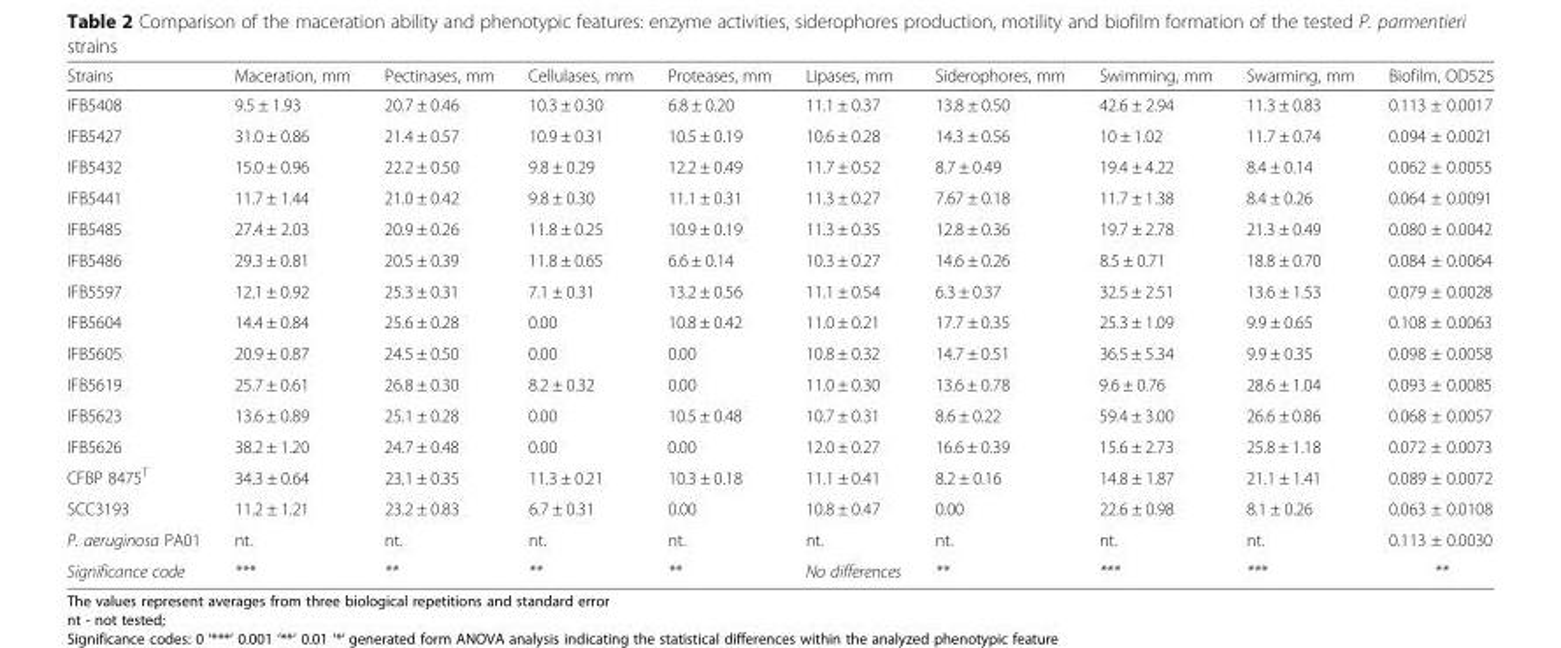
<table><thead><tr><td>Strains</td><td>Maceration, mm</td><td>Pectinases, mm</td><td>Cellulases, mm</td><td>Proteases, mm</td><td>Lipases, mm</td><td>Siderophores, mm</td><td>Swimming, mm</td><td>Swarming, mm</td><td>Biofilm, OD525</td></tr></thead><tbody><tr><td>IFB5408</td><td>9.5 ± 1.93</td><td>20.7 ± 0.46</td><td>10.3 ± 0.30</td><td>6.8 ± 0.20</td><td>11.1 ± 0.37</td><td>13.8 ± 0.50</td><td>42.6 ± 2.94</td><td>11.3 ± 0.83</td><td>0.113 ± 0.0017</td></tr><tr><td>IFB5427</td><td>31.0 ± 0.86</td><td>21.4 ± 0.57</td><td>10.9 ± 0.31</td><td>10.5 ± 0.19</td><td>10.6 ± 0.28</td><td>14.3 ± 0.56</td><td>10 ± 1.02</td><td>11.7 ± 0.74</td><td>0.094 ± 0.0021</td></tr><tr><td>IFB5432</td><td>15.0 ± 0.96</td><td>22.2 ± 0.50</td><td>9.8 ± 0.29</td><td>12.2 ± 0.49</td><td>11.7 ± 0.52</td><td>8.7 ± 0.49</td><td>19.4 ± 4.22</td><td>8.4 ± 0.14</td><td>0.062 ± 0.0055</td></tr><tr><td>IFB5441</td><td>11.7 ± 1.44</td><td>21.0 ± 0.42</td><td>9.8 ± 0.30</td><td>11.1 ± 0.31</td><td>11.3 ± 0.27</td><td>7.67 ± 0.18</td><td>11.7 ± 1.38</td><td>8.4 ± 0.26</td><td>0.064 ± 0.0091</td></tr><tr><td>IFB5485</td><td>27.4 ± 2.03</td><td>20.9 ± 0.26</td><td>11.8 ± 0.25</td><td>10.9 ± 0.19</td><td>11.3 ± 0.35</td><td>12.8 ± 0.36</td><td>19.7 ± 2.78</td><td>21.3 ± 0.49</td><td>0.080 ± 0.0042</td></tr><tr><td>IFB5486</td><td>29.3 ± 0.81</td><td>20.5 ± 0.39</td><td>11.8 ± 0.65</td><td>6.6 ± 0.14</td><td>10.3 ± 0.27</td><td>14.6 ± 0.26</td><td>8.5 ± 0.71</td><td>18.8 ± 0.70</td><td>0.084 ± 0.0064</td></tr><tr><td>IFB5597</td><td>12.1 ± 0.92</td><td>25.3 ± 0.31</td><td>7.1 ± 0.31</td><td>13.2 ± 0.56</td><td>11.1 ± 0.54</td><td>6.3 ± 0.37</td><td>32.5 ± 2.51</td><td>13.6 ± 1.53</td><td>0.079 ± 0.0028</td></tr><tr><td>IFB5604</td><td>14.4 ± 0.84</td><td>25.6 ± 0.28</td><td>0.00</td><td>10.8 ± 0.42</td><td>11.0 ± 0.21</td><td>17.7 ± 0.35</td><td>25.3 ± 1.09</td><td>9.9 ± 0.65</td><td>0.108 ± 0.0063</td></tr><tr><td>IFB5605</td><td>20.9 ± 0.87</td><td>24.5 ± 0.50</td><td>0.00</td><td>0.00</td><td>10.8 ± 0.32</td><td>14.7 ± 0.51</td><td>36.5 ± 5.34</td><td>9.9 ± 0.35</td><td>0.098 ± 0.0058</td></tr><tr><td>IFB5619</td><td>25.7 ± 0.61</td><td>26.8 ± 0.30</td><td>8.2 ± 0.32</td><td>0.00</td><td>11.0 ± 0.30</td><td>13.6 ± 0.78</td><td>9.6 ± 0.76</td><td>28.6 ± 1.04</td><td>0.093 ± 0.0085</td></tr><tr><td>IFB5623</td><td>13.6 ± 0.89</td><td>25.1 ± 0.28</td><td>0.00</td><td>10.5 ± 0.48</td><td>10.7 ± 0.31</td><td>8.6 ± 0.22</td><td>59.4 ± 3.00</td><td>26.6 ± 0.86</td><td>0.068 ± 0.0057</td></tr><tr><td>IFB5626</td><td>38.2 ± 1.20</td><td>24.7 ± 0.48</td><td>0.00</td><td>0.00</td><td>12.0 ± 0.27</td><td>16.6 ± 0.39</td><td>15.6 ± 2.73</td><td>25.8 ± 1.18</td><td>0.072 ± 0.0073</td></tr><tr><td>CFBP 8475<sup>T</sup></td><td>34.3 ± 0.64</td><td>23.1 ± 0.35</td><td>11.3 ± 0.21</td><td>10.3 ± 0.18</td><td>11.1 ± 0.41</td><td>8.2 ± 0.16</td><td>14.8 ± 1.87</td><td>21.1 ± 1.41</td><td>0.089 ± 0.0072</td></tr><tr><td>SCC3193</td><td>11.2 ± 1.21</td><td>23.2 ± 0.83</td><td>6.7 ± 0.31</td><td>0.00</td><td>10.8 ± 0.47</td><td>0.00</td><td>22.6 ± 0.98</td><td>8.1 ± 0.26</td><td>0.063 ± 0.0108</td></tr><tr><td>P. aeruginosa PA01</td><td>nt.</td><td>nt.</td><td>nt.</td><td>nt.</td><td>nt.</td><td>nt.</td><td>nt.</td><td>nt.</td><td>0.113 ± 0.0030</td></tr><tr><td>Significance code</td><td>***</td><td>**</td><td>**</td><td>**</td><td>No differences</td><td>**</td><td>***</td><td>***</td><td>**</td></tr></tbody></table>